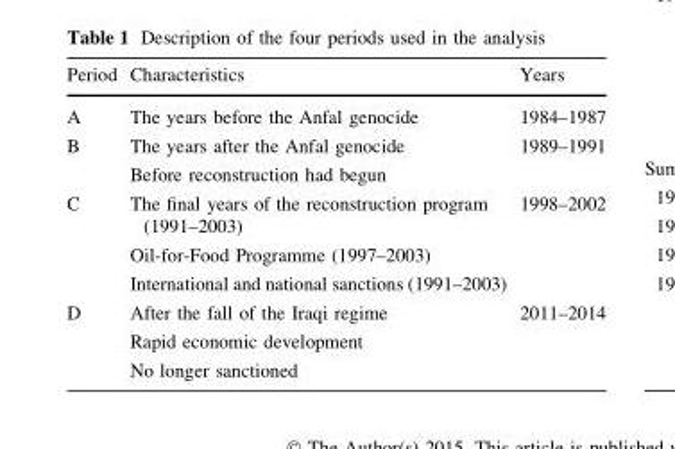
<table><thead><tr><td>Period</td><td>Characteristics</td><td>Years</td></tr></thead><tbody><tr><td>A</td><td>The years before the Anfal genocide</td><td>1984–1987</td></tr><tr><td rowspan="2">B</td><td>The years after the Anfal genocide</td><td rowspan="2">1989–1991</td></tr><tr><td>Before reconstruction had begun</td></tr><tr><td rowspan="3">C</td><td>The final years of the reconstruction program (1991–2003)</td><td rowspan="3">1998–2002</td></tr><tr><td>Oil-for-Food Programme (1997–2003)</td></tr><tr><td>International and national sanctions (1991–2003)</td></tr><tr><td rowspan="3">D</td><td>After the fall of the Iraqi regime</td><td rowspan="3">2011–2014</td></tr><tr><td>Rapid economic development</td></tr><tr><td>No longer sanctioned</td></tr></tbody></table>